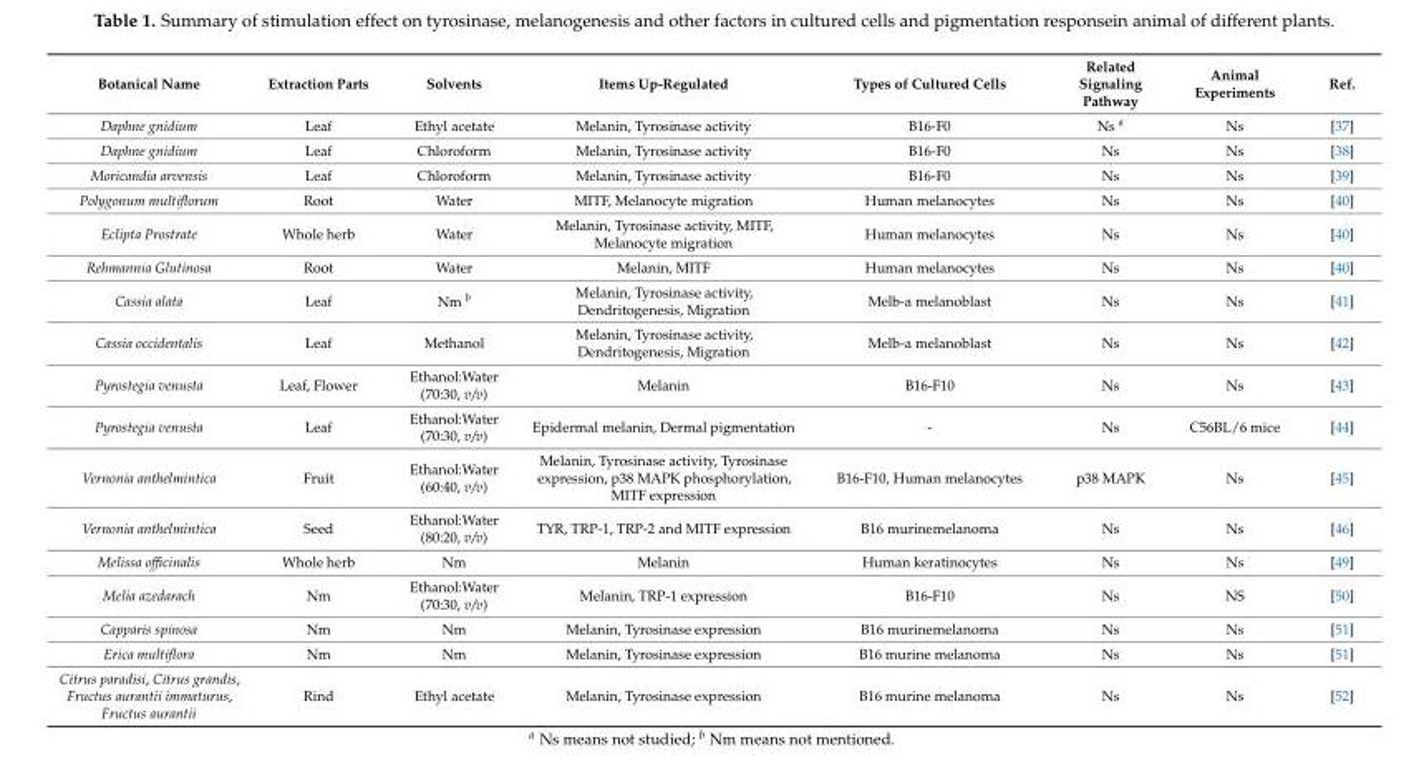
<table><thead><tr><td>Botanical Name</td><td>Extraction Parts</td><td>Solvents</td><td>Items Up-Regulated</td><td>Types of Cultured Cells</td><td>Related Signaling Pathway</td><td>Animal Experiments</td><td>Ref.</td></tr></thead><tbody><tr><td>Daphne gnidium</td><td>Leaf</td><td>Ethyl acetate</td><td>Melanin, Tyrosinase activity</td><td>B16-F0</td><td>Ns a</td><td>Ns</td><td>[37]</td></tr><tr><td>Daphne gnidium</td><td>Leaf</td><td>Chloroform</td><td>Melanin, Tyrosinase activity</td><td>B16-F0</td><td>Ns</td><td>Ns</td><td>[38]</td></tr><tr><td>Moricandia arvensis</td><td>Leaf</td><td>Chloroform</td><td>Melanin, Tyrosinase activity</td><td>B16-F0</td><td>Ns</td><td>Ns</td><td>[39]</td></tr><tr><td>Polygonum multiflorum</td><td>Root</td><td>Water</td><td>MITF, Melanocyte migration</td><td>Human melanocytes</td><td>Ns</td><td>Ns</td><td>[40]</td></tr><tr><td>Eclipta Prostrate</td><td>Whole herb</td><td>Water</td><td>Melanin, Tyrosinase activity, MITF, Melanocyte migration</td><td>Human melanocytes</td><td>Ns</td><td>Ns</td><td>[40]</td></tr><tr><td>Rehmannia Glutinosa</td><td>Root</td><td>Water</td><td>Melanin, MITF</td><td>Human melanocytes</td><td>Ns</td><td>Ns</td><td>[40]</td></tr><tr><td>Cassia alata</td><td>Leaf</td><td>Nm b</td><td>Melanin, Tyrosinase activity, Dendritogenesis, Migration</td><td>Melb-a melanoblast</td><td>Ns</td><td>Ns</td><td>[41]</td></tr><tr><td>Cassia occidentalis</td><td>Leaf</td><td>Methanol</td><td>Melanin, Tyrosinase activity, Dendritogenesis, Migration</td><td>Melb-a melanoblast</td><td>Ns</td><td>Ns</td><td>[42]</td></tr><tr><td>Pyrostegia venusta</td><td>Leaf, Flower</td><td>Ethanol:Water (70:30, v/v)</td><td>Melanin</td><td>B16-F10</td><td>Ns</td><td>Ns</td><td>[43]</td></tr><tr><td>Pyrostegia venusta</td><td>Leaf</td><td>Ethanol:Water (70:30, v/v)</td><td>Epidermal melanin, Dermal pigmentation</td><td>-</td><td>Ns</td><td>C56BL/6 mice</td><td>[44]</td></tr><tr><td>Vernonia anthelmintica</td><td>Fruit</td><td>Ethanol:Water (60:40, v/v)</td><td>Melanin, Tyrosinase activity, Tyrosinase expression, p38 MAPK phosphorylation, MITF expression</td><td>B16-F10, Human melanocytes</td><td>p38 MAPK</td><td>Ns</td><td>[45]</td></tr><tr><td>Vernonia anthelmintica</td><td>Seed</td><td>Ethanol:Water (80:20, v/v)</td><td>TYR, TRP-1, TRP-2 and MITF expression</td><td>B16 murinemelanoma</td><td>Ns</td><td>Ns</td><td>[46]</td></tr><tr><td>Melissa officinalis</td><td>Whole herb</td><td>Nm</td><td>Melanin</td><td>Human keratinocytes</td><td>Ns</td><td>Ns</td><td>[49]</td></tr><tr><td>Melia azedarach</td><td>Nm</td><td>Ethanol:Water (70:30, v/v)</td><td>Melanin, TRP-1 expression</td><td>B16-F10</td><td>Ns</td><td>NS</td><td>[50]</td></tr><tr><td>Capparis spinosa</td><td>Nm</td><td>Nm</td><td>Melanin, Tyrosinase expression</td><td>B16 murinemelanoma</td><td>Ns</td><td>Ns</td><td>[51]</td></tr><tr><td>Erica multiflora</td><td>Nm</td><td>Nm</td><td>Melanin, Tyrosinase expression</td><td>B16 murine melanoma</td><td>Ns</td><td>Ns</td><td>[51]</td></tr><tr><td>Citrus paradisi, Citrus grandis, Fructus aurantii immaturus, Fructus aurantii</td><td>Rind</td><td>Ethyl acetate</td><td>Melanin, Tyrosinase expression</td><td>B16 murine melanoma</td><td>Ns</td><td>Ns</td><td>[52]</td></tr></tbody></table>